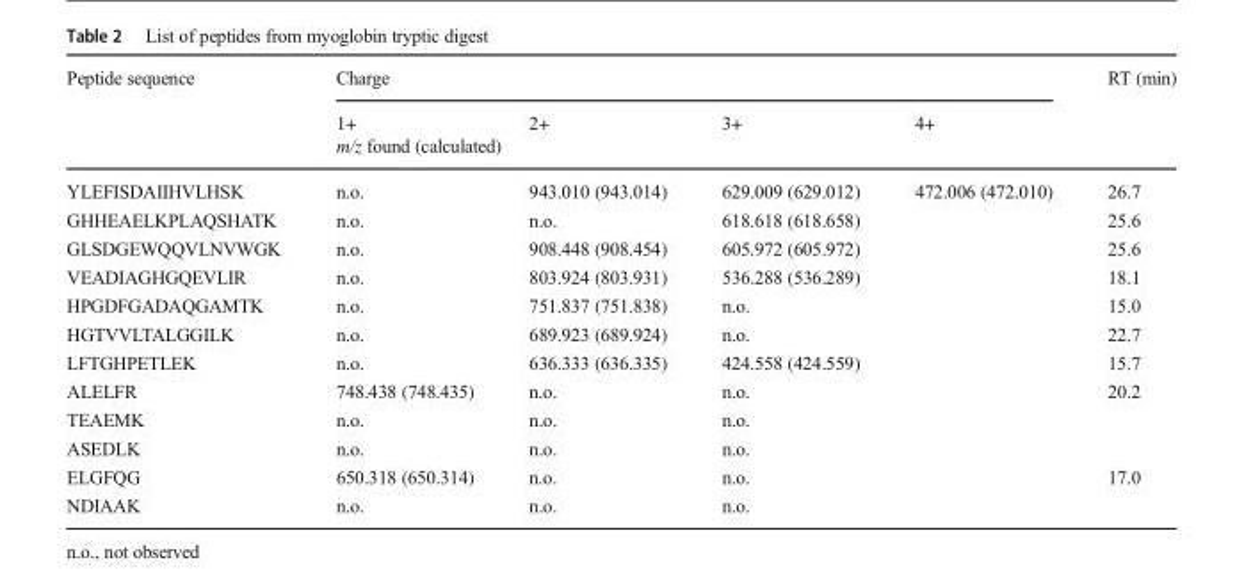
<table><thead><tr><td rowspan="3">Peptide sequence</td><td colspan="4">Charge</td><td rowspan="3">RT (min)</td></tr><tr><td>1+</td><td>2+</td><td>3+</td><td>4+</td></tr><tr><td colspan="4">m/z found (calculated)</td></tr></thead><tbody><tr><td>YLEFISDAIIHVLHSK</td><td>n.o.</td><td>943.010 (943.014)</td><td>629.009 (629.012)</td><td>472.006 (472.010)</td><td>26.7</td></tr><tr><td>GHHEAELKPLAQSHATK</td><td>n.o.</td><td>n.o.</td><td>618.618 (618.658)</td><td></td><td>25.6</td></tr><tr><td>GLSDGEWQQVLNVWGK</td><td>n.o.</td><td>908.448 (908.454)</td><td>605.972 (605.972)</td><td></td><td>25.6</td></tr><tr><td>VEADIAGHGQEVLIR</td><td>n.o.</td><td>803.924 (803.931)</td><td>536.288 (536.289)</td><td></td><td>18.1</td></tr><tr><td>HPGDFGADAQGAMTK</td><td>n.o.</td><td>751.837 (751.838)</td><td>n.o.</td><td></td><td>15.0</td></tr><tr><td>HGTVVLTALGGILK</td><td>n.o.</td><td>689.923 (689.924)</td><td>n.o.</td><td></td><td>22.7</td></tr><tr><td>LFTGHPETLEK</td><td>n.o.</td><td>636.333 (636.335)</td><td>424.558 (424.559)</td><td></td><td>15.7</td></tr><tr><td>ALELFR</td><td>748.438 (748.435)</td><td>n.o.</td><td>n.o.</td><td></td><td>20.2</td></tr><tr><td>TEAEMK</td><td>n.o.</td><td>n.o.</td><td>n.o.</td><td></td><td></td></tr><tr><td>ASEDLK</td><td>n.o.</td><td>n.o.</td><td>n.o.</td><td></td><td></td></tr><tr><td>ELGFQG</td><td>650.318 (650.314)</td><td>n.o.</td><td>n.o.</td><td></td><td>17.0</td></tr><tr><td>NDIAAK</td><td>n.o.</td><td>n.o.</td><td>n.o.</td><td></td><td></td></tr></tbody></table>